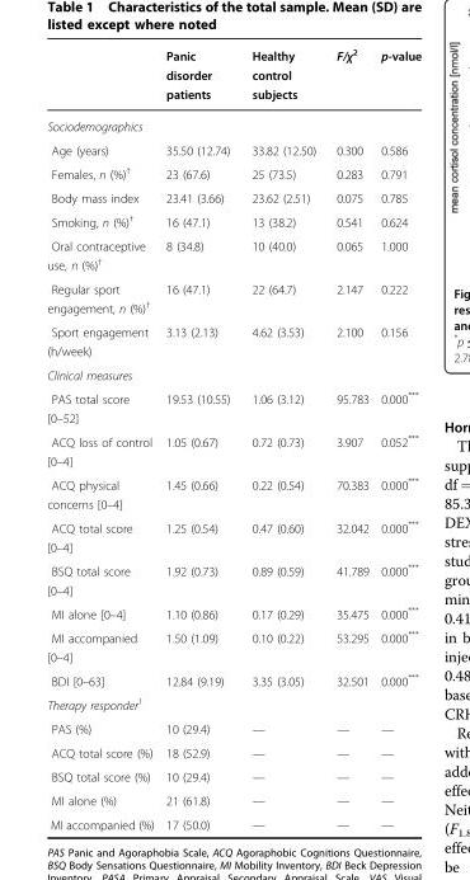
<table><thead><tr><td></td><td>Panic disorder patients</td><td>Healthy control subjects</td><td>F/χ<sup>2</sup></td><td>p-value</td></tr></thead><tbody><tr><td colspan="5">Sociodemographics</td></tr><tr><td>Age (years)</td><td>35.50 (12.74)</td><td>33.82 (12.50)</td><td>0.300</td><td>0.586</td></tr><tr><td>Females, n (%)<sup>†</sup></td><td>23 (67.6)</td><td>25 (73.5)</td><td>0.283</td><td>0.791</td></tr><tr><td>Body mass index</td><td>23.41 (3.66)</td><td>23.62 (2.51)</td><td>0.075</td><td>0.785</td></tr><tr><td>Smoking, n (%)<sup>†</sup></td><td>16 (47.1)</td><td>13 (38.2)</td><td>0.541</td><td>0.624</td></tr><tr><td>Oral contraceptive use, n (%)<sup>†</sup></td><td>8 (34.8)</td><td>10 (40.0)</td><td>0.065</td><td>1.000</td></tr><tr><td>Regular sport engagement, n (%)<sup>†</sup></td><td>16 (47.1)</td><td>22 (64.7)</td><td>2.147</td><td>0.222</td></tr><tr><td>Sport engagement (h/week)</td><td>3.13 (2.13)</td><td>4.62 (3.53)</td><td>2.100</td><td>0.156</td></tr><tr><td colspan="5">Clinical measures</td></tr><tr><td>PAS total score [0–52]</td><td>19.53 (10.55)</td><td>1.06 (3.12)</td><td>95.783</td><td>0.000***</td></tr><tr><td>ACQ loss of control [0–4]</td><td>1.05 (0.67)</td><td>0.72 (0.73)</td><td>3.907</td><td>0.052***</td></tr><tr><td>ACQ physical concerns [0–4]</td><td>1.45 (0.66)</td><td>0.22 (0.54)</td><td>70.383</td><td>0.000***</td></tr><tr><td>ACQ total score [0–4]</td><td>1.25 (0.54)</td><td>0.47 (0.60)</td><td>32.042</td><td>0.000***</td></tr><tr><td>BSQ total score [0–4]</td><td>1.92 (0.73)</td><td>0.89 (0.59)</td><td>41.789</td><td>0.000***</td></tr><tr><td>MI alone [0–4]</td><td>1.10 (0.86)</td><td>0.17 (0.29)</td><td>35.475</td><td>0.000***</td></tr><tr><td>MI accompanied [0–4]</td><td>1.50 (1.09)</td><td>0.10 (0.22)</td><td>53.295</td><td>0.000***</td></tr><tr><td>BDI [0–63]</td><td>12.84 (9.19)</td><td>3.35 (3.05)</td><td>32.501</td><td>0.000***</td></tr><tr><td colspan="5">Therapy responder<sup>1</sup></td></tr><tr><td>PAS (%)</td><td>10 (29.4)</td><td>—</td><td>—</td><td>—</td></tr><tr><td>ACQ total score (%)</td><td>18 (52.9)</td><td>—</td><td>—</td><td>—</td></tr><tr><td>BSQ total score (%)</td><td>10 (29.4)</td><td>—</td><td>—</td><td>—</td></tr><tr><td>MI alone (%)</td><td>21 (61.8)</td><td>—</td><td>—</td><td>—</td></tr><tr><td>MI accompanied (%)</td><td>17 (50.0)</td><td>—</td><td>—</td><td>—</td></tr></tbody></table>